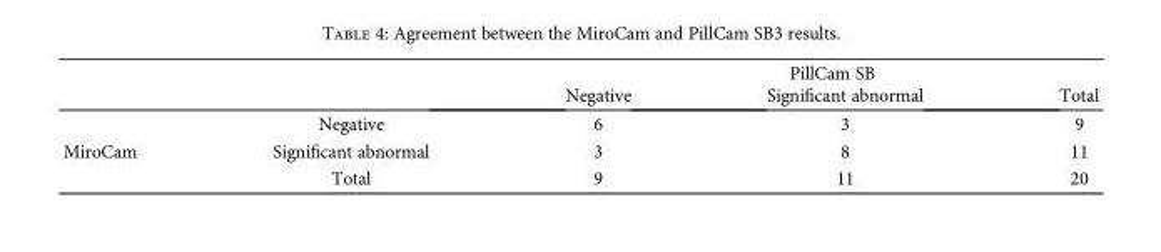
<table><thead><tr><td rowspan="2"></td><td rowspan="2"></td><td colspan="3">PillCam SB</td></tr><tr><td>Negative</td><td>Significant abnormal</td><td>Total</td></tr></thead><tbody><tr><td rowspan="3">MiroCam</td><td>Negative</td><td>6</td><td>3</td><td>9</td></tr><tr><td>Significant abnormal</td><td>3</td><td>8</td><td>11</td></tr><tr><td>Total</td><td>9</td><td>11</td><td>20</td></tr></tbody></table>